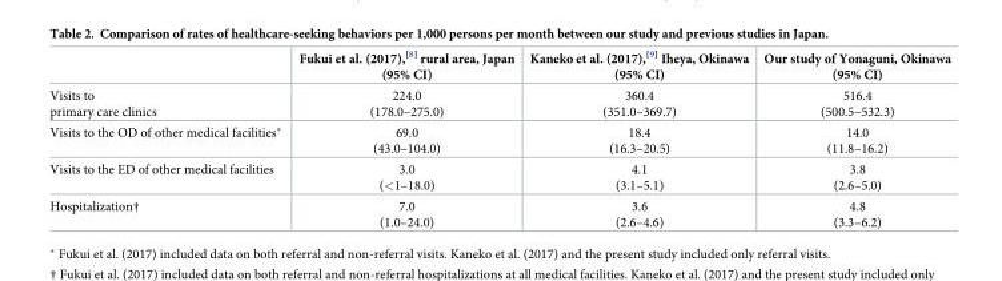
<table><thead><tr><td></td><td>Fukui et al. (2017),<sup>[8]</sup> rural area, Japan (95% CI)</td><td>Kaneko et al. (2017),<sup>[9]</sup> Iheya, Okinawa (95% CI)</td><td>Our study of Yonaguni, Okinawa (95% CI)</td></tr></thead><tbody><tr><td>Visits to primary care clinics</td><td>224.0 (178.0–275.0)</td><td>360.4 (351.0–369.7)</td><td>516.4 (500.5–532.3)</td></tr><tr><td>Visits to the OD of other medical facilities*</td><td>69.0 (43.0–104.0)</td><td>18.4 (16.3–20.5)</td><td>14.0 (11.8–16.2)</td></tr><tr><td>Visits to the ED of other medical facilities</td><td>3.0 (&lt;1–18.0)</td><td>4.1 (3.1–5.1)</td><td>3.8 (2.6–5.0)</td></tr><tr><td>Hospitalization†</td><td>7.0 (1.0–24.0)</td><td>3.6 (2.6–4.6)</td><td>4.8 (3.3–6.2)</td></tr></tbody></table>